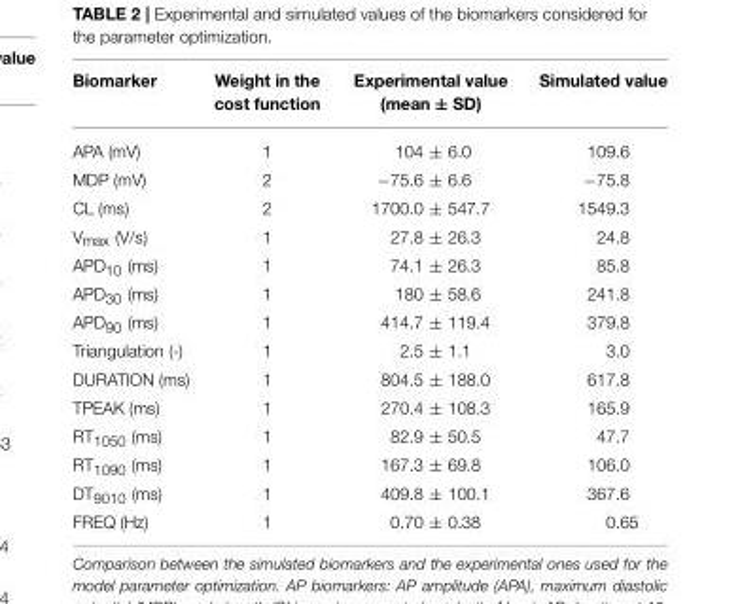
<table><thead><tr><td>Biomarker</td><td>Weight in the cost function</td><td>Experimental value (mean ± SD)</td><td>Simulated value</td></tr></thead><tbody><tr><td>APA (mV)</td><td>1</td><td>104 ± 6.0</td><td>109.6</td></tr><tr><td>MDP (mV)</td><td>2</td><td>−75.6 ± 6.6</td><td>−75.8</td></tr><tr><td>CL (ms)</td><td>2</td><td>1700.0 ± 547.7</td><td>1549.3</td></tr><tr><td>V<sub>max</sub> (V/s)</td><td>1</td><td>27.8 ± 26.3</td><td>24.8</td></tr><tr><td>APD<sub>10</sub> (ms)</td><td>1</td><td>74.1 ± 26.3</td><td>85.8</td></tr><tr><td>APD<sub>30</sub> (ms)</td><td>1</td><td>180 ± 58.6</td><td>241.8</td></tr><tr><td>APD<sub>90</sub> (ms)</td><td>1</td><td>414.7 ± 119.4</td><td>379.8</td></tr><tr><td>Triangulation (-)</td><td>1</td><td>2.5 ± 1.1</td><td>3.0</td></tr><tr><td>DURATION (ms)</td><td>1</td><td>804.5 ± 188.0</td><td>617.8</td></tr><tr><td>TPEAK (ms)</td><td>1</td><td>270.4 ± 108.3</td><td>165.9</td></tr><tr><td>RT<sub>1050</sub> (ms)</td><td>1</td><td>82.9 ± 50.5</td><td>47.7</td></tr><tr><td>RT<sub>1090</sub> (ms)</td><td>1</td><td>167.3 ± 69.8</td><td>106.0</td></tr><tr><td>DT<sub>9010</sub> (ms)</td><td>1</td><td>409.8 ± 100.1</td><td>367.6</td></tr><tr><td>FREQ (Hz)</td><td>1</td><td>0.70 ± 0.38</td><td>0.65</td></tr></tbody></table>